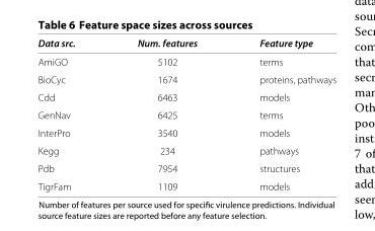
<table><thead><tr><td>Data src.</td><td>Num. features</td><td>Feature type</td></tr></thead><tbody><tr><td>AmiGO</td><td>5102</td><td>terms</td></tr><tr><td>BioCyc</td><td>1674</td><td>proteins, pathways</td></tr><tr><td>Cdd</td><td>6463</td><td>models</td></tr><tr><td>GenNav</td><td>6425</td><td>terms</td></tr><tr><td>InterPro</td><td>3540</td><td>models</td></tr><tr><td>Kegg</td><td>234</td><td>pathways</td></tr><tr><td>Pdb</td><td>7954</td><td>structures</td></tr><tr><td>TigrFam</td><td>1109</td><td>models</td></tr></tbody></table>